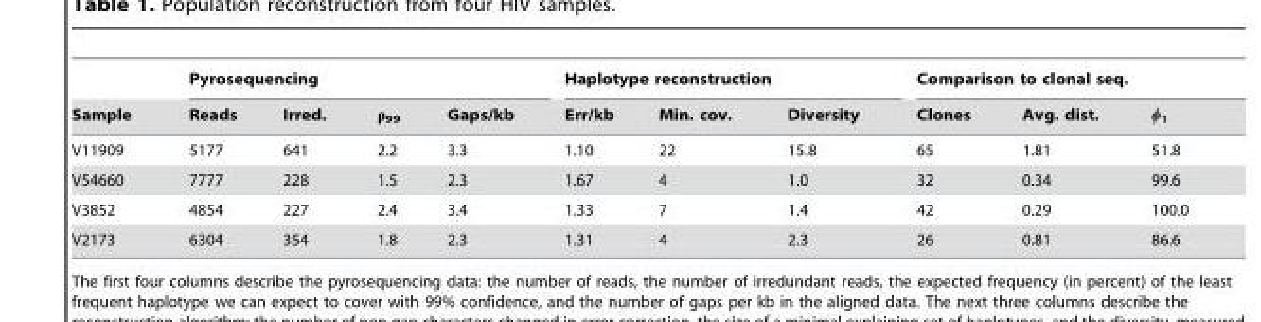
<table><thead><tr><td rowspan="2">Sample</td><td colspan="4">Pyrosequencing</td><td colspan="3">Haplotype reconstruction</td><td colspan="3">Comparison to clonal seq.</td></tr><tr><td>Reads</td><td>Irred.</td><td>ρ<sub>99</sub></td><td>Gaps/kb</td><td>Err/kb</td><td>Min. cov.</td><td>Diversity</td><td>Clones</td><td>Avg. dist.</td><td>φ<sub>1</sub></td></tr></thead><tbody><tr><td>V11909</td><td>5177</td><td>641</td><td>2.2</td><td>3.3</td><td>1.10</td><td>22</td><td>15.8</td><td>65</td><td>1.81</td><td>51.8</td></tr><tr><td>V54660</td><td>7777</td><td>228</td><td>1.5</td><td>2.3</td><td>1.67</td><td>4</td><td>1.0</td><td>32</td><td>0.34</td><td>99.6</td></tr><tr><td>V3852</td><td>4854</td><td>227</td><td>2.4</td><td>3.4</td><td>1.33</td><td>7</td><td>1.4</td><td>42</td><td>0.29</td><td>100.0</td></tr><tr><td>V2173</td><td>6304</td><td>354</td><td>1.8</td><td>2.3</td><td>1.31</td><td>4</td><td>2.3</td><td>26</td><td>0.81</td><td>86.6</td></tr></tbody></table>